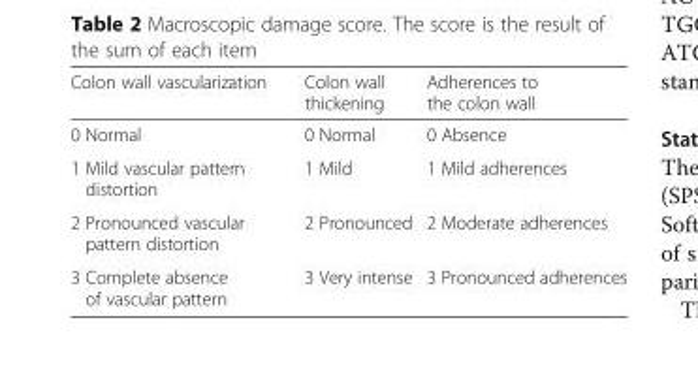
<table><thead><tr><td>Colon wall vascularization</td><td>Colon wall thickening</td><td>Adherences to the colon wall</td></tr></thead><tbody><tr><td>0 Normal</td><td>0 Normal</td><td>0 Absence</td></tr><tr><td>1 Mild vascular pattern distortion</td><td>1 Mild</td><td>1 Mild adherences</td></tr><tr><td>2 Pronounced vascular pattern distortion</td><td>2 Pronounced</td><td>2 Moderate adherences</td></tr><tr><td>3 Complete absence of vascular pattern</td><td>3 Very intense</td><td>3 Pronounced adherences</td></tr></tbody></table>